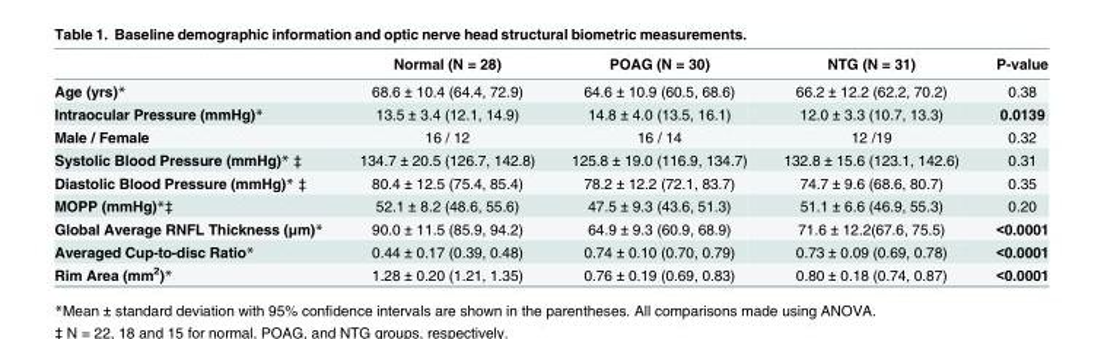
<table><thead><tr><td></td><td>Normal (N = 28)</td><td>POAG (N = 30)</td><td>NTG (N = 31)</td><td>P-value</td></tr></thead><tbody><tr><td>Age (yrs)*</td><td>68.6 ± 10.4 (64.4, 72.9)</td><td>64.6 ± 10.9 (60.5, 68.6)</td><td>66.2 ± 12.2 (62.2, 70.2)</td><td>0.38</td></tr><tr><td>Intraocular Pressure (mmHg)*</td><td>13.5 ± 3.4 (12.1, 14.9)</td><td>14.8 ± 4.0 (13.5, 16.1)</td><td>12.0 ± 3.3 (10.7, 13.3)</td><td>0.0139</td></tr><tr><td>Male / Female</td><td>16 / 12</td><td>16 / 14</td><td>12 /19</td><td>0.32</td></tr><tr><td>Systolic Blood Pressure (mmHg)* ‡</td><td>134.7 ± 20.5 (126.7, 142.8)</td><td>125.8 ± 19.0 (116.9, 134.7)</td><td>132.8 ± 15.6 (123.1, 142.6)</td><td>0.31</td></tr><tr><td>Diastolic Blood Pressure (mmHg)* ‡</td><td>80.4 ± 12.5 (75.4, 85.4)</td><td>78.2 ± 12.2 (72.1, 83.7)</td><td>74.7 ± 9.6 (68.6, 80.7)</td><td>0.35</td></tr><tr><td>MOPP (mmHg)*‡</td><td>52.1 ± 8.2 (48.6, 55.6)</td><td>47.5 ± 9.3 (43.6, 51.3)</td><td>51.1 ± 6.6 (46.9, 55.3)</td><td>0.20</td></tr><tr><td>Global Average RNFL Thickness (μm)*</td><td>90.0 ± 11.5 (85.9, 94.2)</td><td>64.9 ± 9.3 (60.9, 68.9)</td><td>71.6 ± 12.2(67.6, 75.5)</td><td>&lt;0.0001</td></tr><tr><td>Averaged Cup-to-disc Ratio*</td><td>0.44 ± 0.17 (0.39, 0.48)</td><td>0.74 ± 0.10 (0.70, 0.79)</td><td>0.73 ± 0.09 (0.69, 0.78)</td><td>&lt;0.0001</td></tr><tr><td>Rim Area (mm<sup>2</sup>)*</td><td>1.28 ± 0.20 (1.21, 1.35)</td><td>0.76 ± 0.19 (0.69, 0.83)</td><td>0.80 ± 0.18 (0.74, 0.87)</td><td>&lt;0.0001</td></tr></tbody></table>